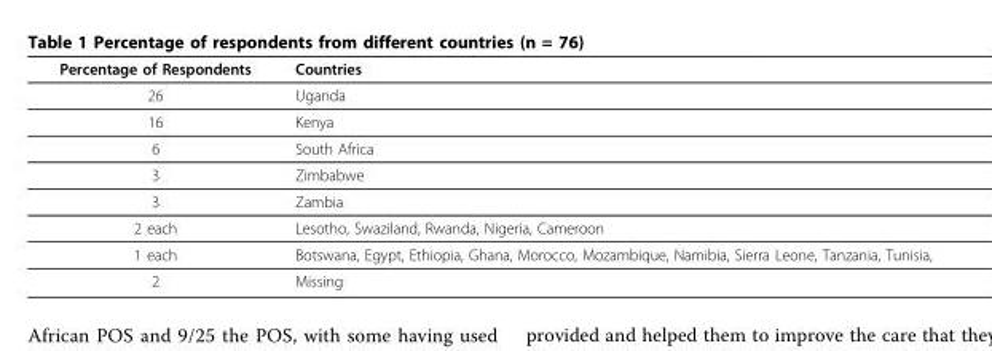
<table><thead><tr><td>Percentage of Respondents</td><td>Countries</td></tr></thead><tbody><tr><td>26</td><td>Uganda</td></tr><tr><td>16</td><td>Kenya</td></tr><tr><td>6</td><td>South Africa</td></tr><tr><td>3</td><td>Zimbabwe</td></tr><tr><td>3</td><td>Zambia</td></tr><tr><td>2 each</td><td>Lesotho, Swaziland, Rwanda, Nigeria, Cameroon</td></tr><tr><td>1 each</td><td>Botswana, Egypt, Ethiopia, Ghana, Morocco, Mozambique, Namibia, Sierra Leone, Tanzania, Tunisia,</td></tr><tr><td>2</td><td>Missing</td></tr></tbody></table>